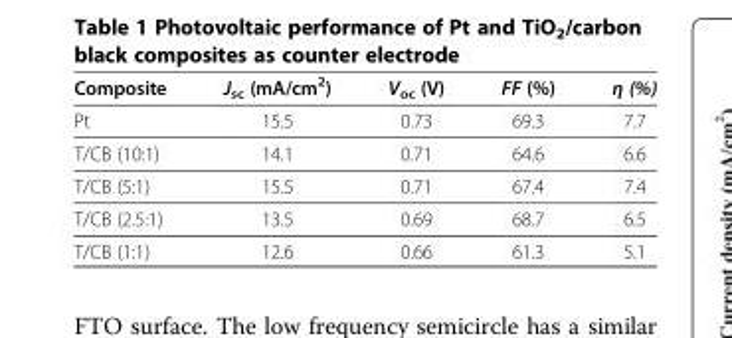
<table><thead><tr><td>Composite</td><td>J<sub>sc</sub> (mA/cm<sup>2</sup>)</td><td>V<sub>oc</sub> (V)</td><td>FF (%)</td><td>η (%)</td></tr></thead><tbody><tr><td>Pt</td><td>15.5</td><td>0.73</td><td>69.3</td><td>7.7</td></tr><tr><td>T/CB (10:1)</td><td>14.1</td><td>0.71</td><td>64.6</td><td>6.6</td></tr><tr><td>T/CB (5:1)</td><td>15.5</td><td>0.71</td><td>67.4</td><td>7.4</td></tr><tr><td>T/CB (2.5:1)</td><td>13.5</td><td>0.69</td><td>68.7</td><td>6.5</td></tr><tr><td>T/CB (1:1)</td><td>12.6</td><td>0.66</td><td>61.3</td><td>5.1</td></tr></tbody></table>